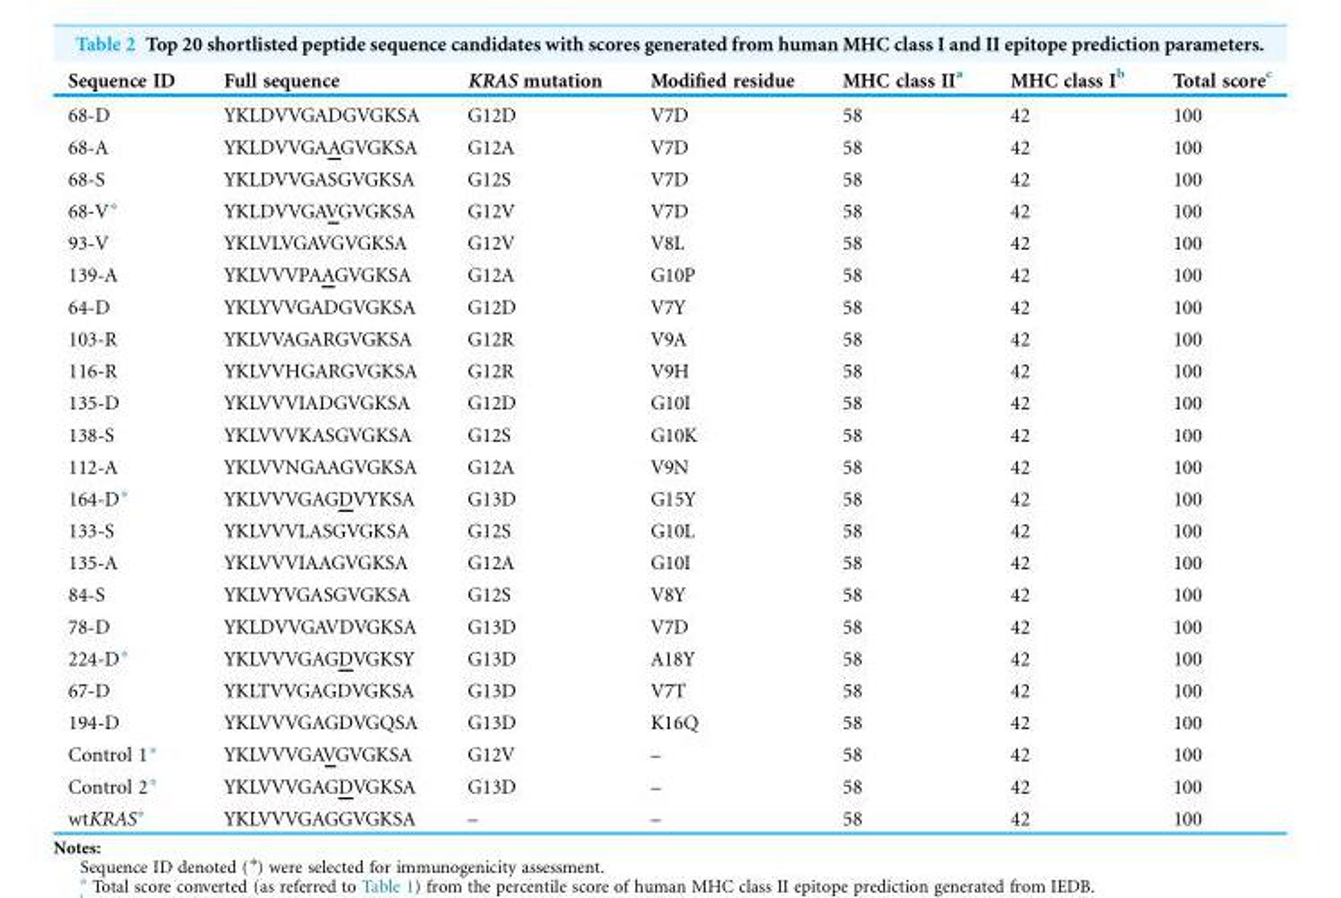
<table><thead><tr><td>Sequence ID</td><td>Full sequence</td><td>KRAS mutation</td><td>Modified residue</td><td>MHC class II<sup>a</sup></td><td>MHC class I<sup>b</sup></td><td>Total score<sup>c</sup></td></tr></thead><tbody><tr><td>68-D</td><td>YKLDVVGADGVGKSA</td><td>G12D</td><td>V7D</td><td>58</td><td>42</td><td>100</td></tr><tr><td>68-A</td><td>YKLDVVGAAGVGKSA</td><td>G12A</td><td>V7D</td><td>58</td><td>42</td><td>100</td></tr><tr><td>68-S</td><td>YKLDVVGASGVGKSA</td><td>G12S</td><td>V7D</td><td>58</td><td>42</td><td>100</td></tr><tr><td>68-V*</td><td>YKLDVVGAVGVGKSA</td><td>G12V</td><td>V7D</td><td>58</td><td>42</td><td>100</td></tr><tr><td>93-V</td><td>YKLVLVGAVGVGKSA</td><td>G12V</td><td>V8L</td><td>58</td><td>42</td><td>100</td></tr><tr><td>139-A</td><td>YKLVVVPAAGVGKSA</td><td>G12A</td><td>G10P</td><td>58</td><td>42</td><td>100</td></tr><tr><td>64-D</td><td>YKLYVVGADGVGKSA</td><td>G12D</td><td>V7Y</td><td>58</td><td>42</td><td>100</td></tr><tr><td>103-R</td><td>YKLVVAGARGVGKSA</td><td>G12R</td><td>V9A</td><td>58</td><td>42</td><td>100</td></tr><tr><td>116-R</td><td>YKLVVHGARGVGKSA</td><td>G12R</td><td>V9H</td><td>58</td><td>42</td><td>100</td></tr><tr><td>135-D</td><td>YKLVVVIADGVGKSA</td><td>G12D</td><td>G10I</td><td>58</td><td>42</td><td>100</td></tr><tr><td>138-S</td><td>YKLVVVKASGVGKSA</td><td>G12S</td><td>G10K</td><td>58</td><td>42</td><td>100</td></tr><tr><td>112-A</td><td>YKLVVNGAAGVGKSA</td><td>G12A</td><td>V9N</td><td>58</td><td>42</td><td>100</td></tr><tr><td>164-D*</td><td>YKLVVVGAGDVYKSA</td><td>G13D</td><td>G15Y</td><td>58</td><td>42</td><td>100</td></tr><tr><td>133-S</td><td>YKLVVVLASGVGKSA</td><td>G12S</td><td>G10L</td><td>58</td><td>42</td><td>100</td></tr><tr><td>135-A</td><td>YKLVVVIAAGVGKSA</td><td>G12A</td><td>G10I</td><td>58</td><td>42</td><td>100</td></tr><tr><td>84-S</td><td>YKLVYVGASGVGKSA</td><td>G12S</td><td>V8Y</td><td>58</td><td>42</td><td>100</td></tr><tr><td>78-D</td><td>YKLDVVGAVDVGKSA</td><td>G13D</td><td>V7D</td><td>58</td><td>42</td><td>100</td></tr><tr><td>224-D*</td><td>YKLVVVGAGDVGKSY</td><td>G13D</td><td>A18Y</td><td>58</td><td>42</td><td>100</td></tr><tr><td>67-D</td><td>YKLTVVGAGDVGKSA</td><td>G13D</td><td>V7T</td><td>58</td><td>42</td><td>100</td></tr><tr><td>194-D</td><td>YKLVVVGAGDVGQSA</td><td>G13D</td><td>K16Q</td><td>58</td><td>42</td><td>100</td></tr><tr><td>Control 1*</td><td>YKLVVVGAVGVGKSA</td><td>G12V</td><td>–</td><td>58</td><td>42</td><td>100</td></tr><tr><td>Control 2*</td><td>YKLVVVGAGDVGKSA</td><td>G13D</td><td>–</td><td>58</td><td>42</td><td>100</td></tr><tr><td>wtKRAS*</td><td>YKLVVVGAGGVGKSA</td><td>–</td><td>–</td><td>58</td><td>42</td><td>100</td></tr></tbody></table>